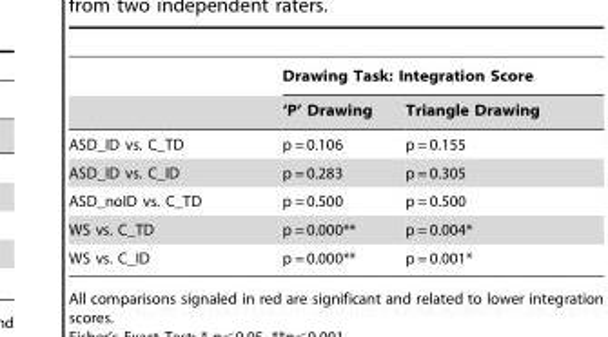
<table><thead><tr><td rowspan="2"></td><td colspan="2">Drawing Task: Integration Score</td></tr><tr><td>‘P’ Drawing</td><td>Triangle Drawing</td></tr></thead><tbody><tr><td>ASD_ID vs. C_TD</td><td>p = 0.106</td><td>p = 0.155</td></tr><tr><td>ASD_ID vs. C_ID</td><td>p = 0.283</td><td>p = 0.305</td></tr><tr><td>ASD_noID vs. C_TD</td><td>p = 0.500</td><td>p = 0.500</td></tr><tr><td>WS vs. C_TD</td><td>p = 0.000**</td><td>p = 0.004*</td></tr><tr><td>WS vs. C_ID</td><td>p = 0.000**</td><td>p = 0.001*</td></tr></tbody></table>